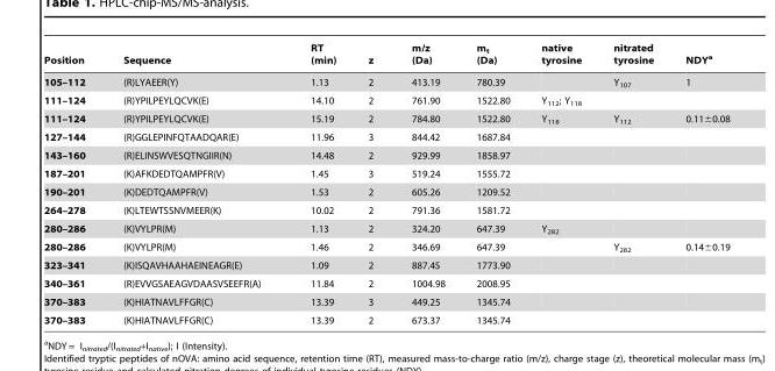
<table><thead><tr><td>Position</td><td>Sequence</td><td>RT (min)</td><td>z</td><td>m/z (Da)</td><td>m<sub>t</sub> (Da)</td><td>native tyrosine</td><td>nitrated tyrosine</td><td>NDY<sup>a</sup></td></tr></thead><tbody><tr><td>105–112</td><td>(R)LYAEER(Y)</td><td>1.13</td><td>2</td><td>413.19</td><td>780.39</td><td></td><td>Y<sub>107</sub></td><td>1</td></tr><tr><td>111–124</td><td>(R)YPILPEYLQCVK(E)</td><td>14.10</td><td>2</td><td>761.90</td><td>1522.80</td><td>Y<sub>112</sub>; Y<sub>118</sub></td><td></td><td></td></tr><tr><td>111–124</td><td>(R)YPILPEYLQCVK(E)</td><td>15.19</td><td>2</td><td>784.80</td><td>1522.80</td><td>Y<sub>118</sub></td><td>Y<sub>112</sub></td><td>0.11±0.08</td></tr><tr><td>127–144</td><td>(R)GGLEPINFQTAADQAR(E)</td><td>11.96</td><td>3</td><td>844.42</td><td>1687.84</td><td></td><td></td><td></td></tr><tr><td>143–160</td><td>(R)ELINSWVESQTNGIIR(N)</td><td>14.48</td><td>2</td><td>929.99</td><td>1858.97</td><td></td><td></td><td></td></tr><tr><td>187–201</td><td>(K)AFKDEDTQAMPFR(V)</td><td>1.45</td><td>3</td><td>519.24</td><td>1555.72</td><td></td><td></td><td></td></tr><tr><td>190–201</td><td>(K)DEDTQAMPFR(V)</td><td>1.53</td><td>2</td><td>605.26</td><td>1209.52</td><td></td><td></td><td></td></tr><tr><td>264–278</td><td>(K)LTEWTSSNVMEER(K)</td><td>10.02</td><td>2</td><td>791.36</td><td>1581.72</td><td></td><td></td><td></td></tr><tr><td>280–286</td><td>(K)VYLPR(M)</td><td>1.13</td><td>2</td><td>324.20</td><td>647.39</td><td>Y<sub>282</sub></td><td></td><td></td></tr><tr><td>280–286</td><td>(K)VYLPR(M)</td><td>1.46</td><td>2</td><td>346.69</td><td>647.39</td><td></td><td>Y<sub>282</sub></td><td>0.14±0.19</td></tr><tr><td>323–341</td><td>(K)ISQAVHAAHAEINEAGR(E)</td><td>1.09</td><td>2</td><td>887.45</td><td>1773.90</td><td></td><td></td><td></td></tr><tr><td>340–361</td><td>(R)EVVGSAEAGVDAASVSEEFR(A)</td><td>11.84</td><td>2</td><td>1004.98</td><td>2008.95</td><td></td><td></td><td></td></tr><tr><td>370–383</td><td>(K)HIATNAVLFFGR(C)</td><td>13.39</td><td>3</td><td>449.25</td><td>1345.74</td><td></td><td></td><td></td></tr><tr><td>370–383</td><td>(K)HIATNAVLFFGR(C)</td><td>13.39</td><td>2</td><td>673.37</td><td>1345.74</td><td></td><td></td><td></td></tr></tbody></table>